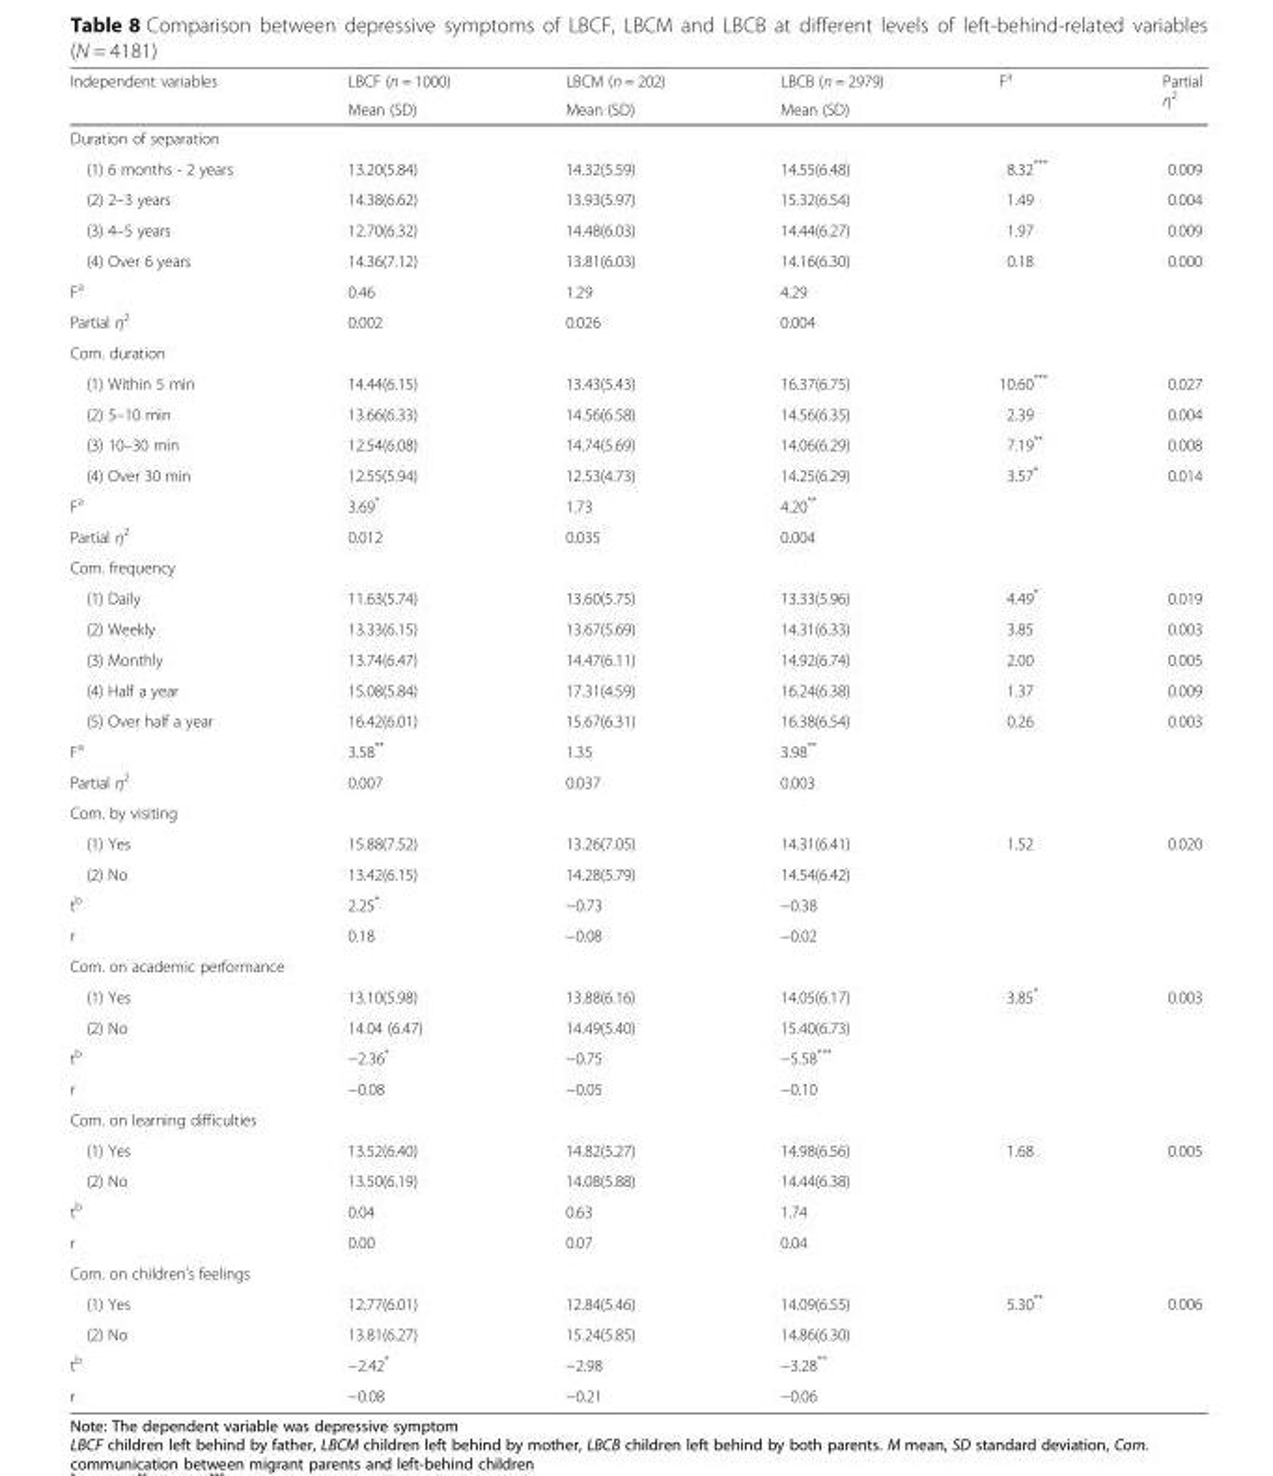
<table><thead><tr><td rowspan="2">Independent variables</td><td rowspan="2">LBCF (n = 1000) Mean (SD)</td><td rowspan="2">LBCM (n = 202) Mean (SD)</td><td rowspan="2">LBCB (n = 2979) Mean (SD)</td><td rowspan="2">F<sup>a</sup></td><td rowspan="2">Partial η<sup>2</sup></td></tr><tr></tr></thead><tbody><tr><td colspan="6">Duration of separation</td></tr><tr><td>(1) 6 months - 2 years</td><td>13.20(5.84)</td><td>14.32(5.59)</td><td>14.55(6.48)</td><td>8.32***</td><td>0.009</td></tr><tr><td>(2) 2–3 years</td><td>14.38(6.62)</td><td>13.93(5.97)</td><td>15.32(6.54)</td><td>1.49</td><td>0.004</td></tr><tr><td>(3) 4–5 years</td><td>12.70(6.32)</td><td>14.48(6.03)</td><td>14.44(6.27)</td><td>1.97</td><td>0.009</td></tr><tr><td>(4) Over 6 years</td><td>14.36(7.12)</td><td>13.81(6.03)</td><td>14.16(6.30)</td><td>0.18</td><td>0.000</td></tr><tr><td>F<sup>a</sup></td><td>0.46</td><td>1.29</td><td>4.29</td><td></td><td></td></tr><tr><td>Partial η<sup>2</sup></td><td>0.002</td><td>0.026</td><td>0.004</td><td></td><td></td></tr><tr><td colspan="6">Com. duration</td></tr><tr><td>(1) Within 5 min</td><td>14.44(6.15)</td><td>13.43(5.43)</td><td>16.37(6.75)</td><td>10.60***</td><td>0.027</td></tr><tr><td>(2) 5–10 min</td><td>13.66(6.33)</td><td>14.56(6.58)</td><td>14.56(6.35)</td><td>2.39</td><td>0.004</td></tr><tr><td>(3) 10–30 min</td><td>12.54(6.08)</td><td>14.74(5.69)</td><td>14.06(6.29)</td><td>7.19**</td><td>0.008</td></tr><tr><td>(4) Over 30 min</td><td>12.55(5.94)</td><td>12.53(4.73)</td><td>14.25(6.29)</td><td>3.57*</td><td>0.014</td></tr><tr><td>F<sup>a</sup></td><td>3.69*</td><td>1.73</td><td>4.20**</td><td></td><td></td></tr><tr><td>Partial η<sup>2</sup></td><td>0.012</td><td>0.035</td><td>0.004</td><td></td><td></td></tr><tr><td colspan="6">Com. frequency</td></tr><tr><td>(1) Daily</td><td>11.63(5.74)</td><td>13.60(5.75)</td><td>13.33(5.96)</td><td>4.49*</td><td>0.019</td></tr><tr><td>(2) Weekly</td><td>13.33(6.15)</td><td>13.67(5.69)</td><td>14.31(6.33)</td><td>3.85</td><td>0.003</td></tr><tr><td>(3) Monthly</td><td>13.74(6.47)</td><td>14.47(6.11)</td><td>14.92(6.74)</td><td>2.00</td><td>0.005</td></tr><tr><td>(4) Half a year</td><td>15.08(5.84)</td><td>17.31(4.59)</td><td>16.24(6.38)</td><td>1.37</td><td>0.009</td></tr><tr><td>(5) Over half a year</td><td>16.42(6.01)</td><td>15.67(6.31)</td><td>16.38(6.54)</td><td>0.26</td><td>0.003</td></tr><tr><td>F<sup>a</sup></td><td>3.58**</td><td>1.35</td><td>3.98**</td><td></td><td></td></tr><tr><td>Partial η<sup>2</sup></td><td>0.007</td><td>0.037</td><td>0.003</td><td></td><td></td></tr><tr><td colspan="6">Com. by visiting</td></tr><tr><td>(1) Yes</td><td>15.88(7.52)</td><td>13.26(7.05)</td><td>14.31(6.41)</td><td>1.52</td><td>0.020</td></tr><tr><td>(2) No</td><td>13.42(6.15)</td><td>14.28(5.79)</td><td>14.54(6.42)</td><td></td><td></td></tr><tr><td>t<sup>b</sup></td><td>2.25*</td><td>−0.73</td><td>−0.38</td><td></td><td></td></tr><tr><td>r</td><td>0.18</td><td>−0.08</td><td>−0.02</td><td></td><td></td></tr><tr><td colspan="6">Com. on academic performance</td></tr><tr><td>(1) Yes</td><td>13.10(5.98)</td><td>13.88(6.16)</td><td>14.05(6.17)</td><td>3.85*</td><td>0.003</td></tr><tr><td>(2) No</td><td>14.04 (6.47)</td><td>14.49(5.40)</td><td>15.40(6.73)</td><td></td><td></td></tr><tr><td>t<sup>b</sup></td><td>−2.36*</td><td>−0.75</td><td>−5.58***</td><td></td><td></td></tr><tr><td>r</td><td>−0.08</td><td>−0.05</td><td>−0.10</td><td></td><td></td></tr><tr><td colspan="6">Com. on learning difficulties</td></tr><tr><td>(1) Yes</td><td>13.52(6.40)</td><td>14.82(5.27)</td><td>14.98(6.56)</td><td>1.68</td><td>0.005</td></tr><tr><td>(2) No</td><td>13.50(6.19)</td><td>14.08(5.88)</td><td>14.44(6.38)</td><td></td><td></td></tr><tr><td>t<sup>b</sup></td><td>0.04</td><td>0.63</td><td>1.74</td><td></td><td></td></tr><tr><td>r</td><td>0.00</td><td>0.07</td><td>0.04</td><td></td><td></td></tr><tr><td colspan="6">Com. on children’s feelings</td></tr><tr><td>(1) Yes</td><td>12.77(6.01)</td><td>12.84(5.46)</td><td>14.09(6.55)</td><td>5.30**</td><td>0.006</td></tr><tr><td>(2) No</td><td>13.81(6.27)</td><td>15.24(5.85)</td><td>14.86(6.30)</td><td></td><td></td></tr><tr><td>t<sup>b</sup></td><td>−2.42*</td><td>−2.98</td><td>−3.28**</td><td></td><td></td></tr><tr><td>r</td><td>−0.08</td><td>−0.21</td><td>−0.06</td><td></td><td></td></tr></tbody></table>